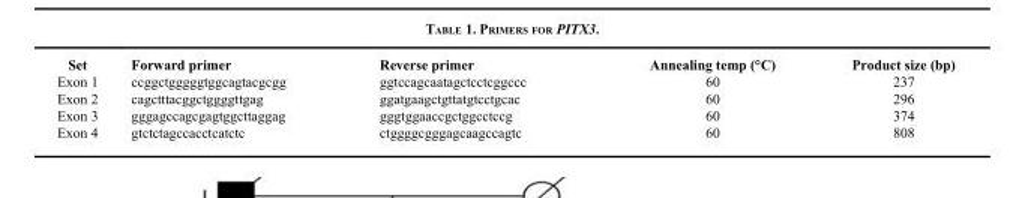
<table><thead><tr><td>Set</td><td>Forward primer</td><td>Reverse primer</td><td>Annealing temp (°C)</td><td>Product size (bp)</td></tr></thead><tbody><tr><td>Exon 1</td><td>ccggctgggggtggcagtacgcgg</td><td>ggtccagcaatagctcctcggccc</td><td>60</td><td>237</td></tr><tr><td>Exon 2</td><td>cagctttacggctggggttgag</td><td>ggatgaagctgttatgtcctgcac</td><td>60</td><td>296</td></tr><tr><td>Exon 3</td><td>gggagccagcgagtggcttaggag</td><td>gggtggaaccgctggcctccg</td><td>60</td><td>374</td></tr><tr><td>Exon 4</td><td>gtctctagccacctcatctc</td><td>ctggggcgggagcaagccagtc</td><td>60</td><td>808</td></tr></tbody></table>